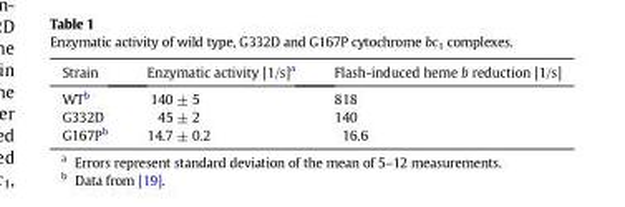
<table><thead><tr><td>Strain</td><td>Enzymatic activity [1/s]<sup>a</sup></td><td>Flash-induced heme b reduction [1/s]</td></tr></thead><tbody><tr><td>WT<sup>b</sup></td><td>140 ± 5</td><td>818</td></tr><tr><td>G332D</td><td>45 ± 2</td><td>140</td></tr><tr><td>G167P<sup>b</sup></td><td>14.7 ± 0.2</td><td>16.6</td></tr></tbody></table>